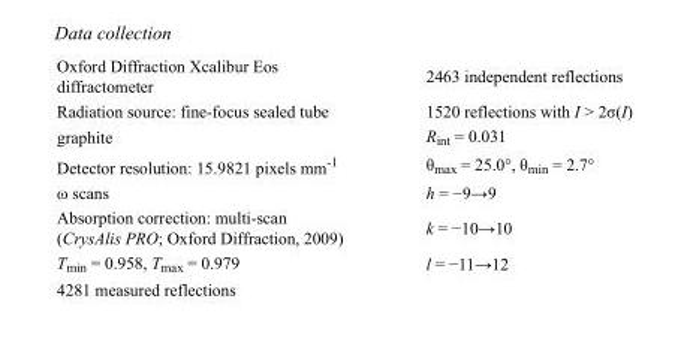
<table><tbody><tr><td>Oxford Diffraction Xcalibur Eos diffractometer</td><td>2463 independent reflections</td></tr><tr><td>Radiation source: fine-focus sealed tube</td><td>1520 reflections with I &gt; 2σ(I)</td></tr><tr><td>graphite</td><td>R<sub>int</sub> = 0.031</td></tr><tr><td>Detector resolution: 15.9821 pixels mm<sup>-1</sup></td><td>θ<sub>max</sub> = 25.0°, θ<sub>min</sub> = 2.7°</td></tr><tr><td>ω scans</td><td>h = −9→9</td></tr><tr><td>Absorption correction: multi-scan (CrysAlis PRO; Oxford Diffraction, 2009)</td><td>k = −10→10</td></tr><tr><td>T<sub>min</sub> = 0.958, T<sub>max</sub> = 0.979</td><td>l = −11→12</td></tr><tr><td>4281 measured reflections</td><td></td></tr></tbody></table>